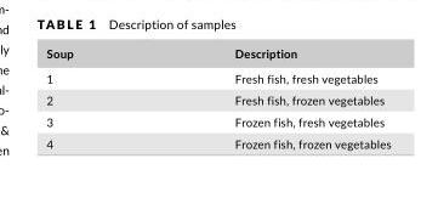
<table><thead><tr><td>Soup</td><td>Description</td></tr></thead><tbody><tr><td>1</td><td>Fresh fish, fresh vegetables</td></tr><tr><td>2</td><td>Fresh fish, frozen vegetables</td></tr><tr><td>3</td><td>Frozen fish, fresh vegetables</td></tr><tr><td>4</td><td>Frozen fish, frozen vegetables</td></tr></tbody></table>